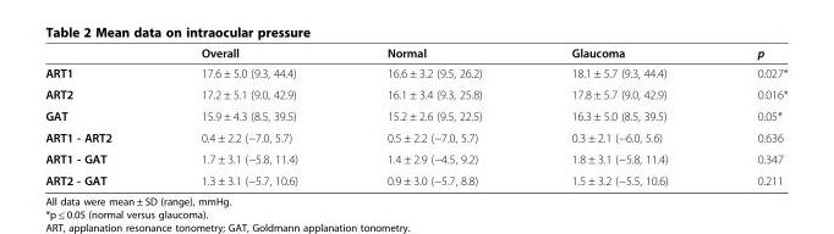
<table><thead><tr><td></td><td>Overall</td><td>Normal</td><td>Glaucoma</td><td>p</td></tr></thead><tbody><tr><td>ART1</td><td>17.6 ± 5.0 (9.3, 44.4)</td><td>16.6 ± 3.2 (9.5, 26.2)</td><td>18.1 ± 5.7 (9.3, 44.4)</td><td>0.027*</td></tr><tr><td>ART2</td><td>17.2 ± 5.1 (9.0, 42.9)</td><td>16.1 ± 3.4 (9.3, 25.8)</td><td>17.8 ± 5.7 (9.0, 42.9)</td><td>0.016*</td></tr><tr><td>GAT</td><td>15.9 ± 4.3 (8.5, 39.5)</td><td>15.2 ± 2.6 (9.5, 22.5)</td><td>16.3 ± 5.0 (8.5, 39.5)</td><td>0.05*</td></tr><tr><td>ART1 - ART2</td><td>0.4 ± 2.2 (−7.0, 5.7)</td><td>0.5 ± 2.2 (−7.0, 5.7)</td><td>0.3 ± 2.1 (−6.0, 5.6)</td><td>0.636</td></tr><tr><td>ART1 - GAT</td><td>1.7 ± 3.1 (−5.8, 11.4)</td><td>1.4 ± 2.9 (−4.5, 9.2)</td><td>1.8 ± 3.1 (−5.8, 11.4)</td><td>0.347</td></tr><tr><td>ART2 - GAT</td><td>1.3 ± 3.1 (−5.7, 10.6)</td><td>0.9 ± 3.0 (−5.7, 8.8)</td><td>1.5 ± 3.2 (−5.5, 10.6)</td><td>0.211</td></tr></tbody></table>